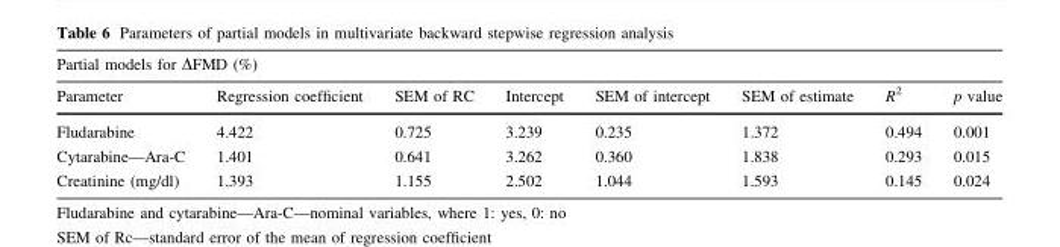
<table><thead><tr><td colspan="8">Partial models for ΔFMD (%)</td></tr><tr><td>Parameter</td><td>Regression coefficient</td><td>SEM of RC</td><td>Intercept</td><td>SEM of intercept</td><td>SEM of estimate</td><td>R<sup>2</sup></td><td>p value</td></tr></thead><tbody><tr><td>Fludarabine</td><td>4.422</td><td>0.725</td><td>3.239</td><td>0.235</td><td>1.372</td><td>0.494</td><td>0.001</td></tr><tr><td>Cytarabine—Ara-C</td><td>1.401</td><td>0.641</td><td>3.262</td><td>0.360</td><td>1.838</td><td>0.293</td><td>0.015</td></tr><tr><td>Creatinine (mg/dl)</td><td>1.393</td><td>1.155</td><td>2.502</td><td>1.044</td><td>1.593</td><td>0.145</td><td>0.024</td></tr></tbody></table>